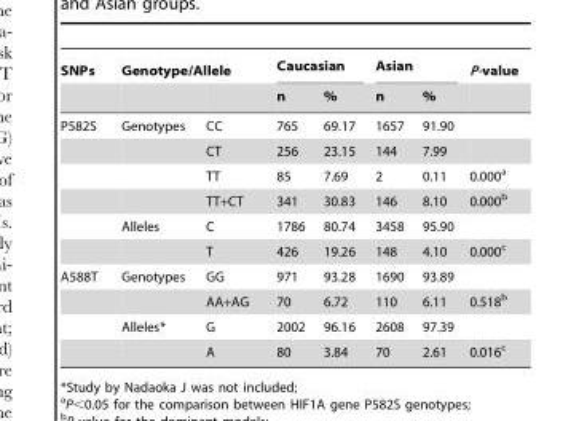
<table><thead><tr><td rowspan="2">SNPs</td><td colspan="2">Genotype/Allele</td><td colspan="2">Caucasian</td><td colspan="2">Asian</td><td rowspan="2">P-value</td></tr><tr><td></td><td></td><td>n</td><td>%</td><td>n</td><td>%</td></tr></thead><tbody><tr><td rowspan="6">P582S</td><td>Genotypes</td><td>CC</td><td>765</td><td>69.17</td><td>1657</td><td>91.90</td><td></td></tr><tr><td></td><td>CT</td><td>256</td><td>23.15</td><td>144</td><td>7.99</td><td></td></tr><tr><td></td><td>TT</td><td>85</td><td>7.69</td><td>2</td><td>0.11</td><td>0.000<sup>a</sup></td></tr><tr><td></td><td>TT+CT</td><td>341</td><td>30.83</td><td>146</td><td>8.10</td><td>0.000<sup>b</sup></td></tr><tr><td>Alleles</td><td>C</td><td>1786</td><td>80.74</td><td>3458</td><td>95.90</td><td></td></tr><tr><td></td><td>T</td><td>426</td><td>19.26</td><td>148</td><td>4.10</td><td>0.000<sup>c</sup></td></tr><tr><td rowspan="4">A588T</td><td>Genotypes</td><td>GG</td><td>971</td><td>93.28</td><td>1690</td><td>93.89</td><td></td></tr><tr><td></td><td>AA+AG</td><td>70</td><td>6.72</td><td>110</td><td>6.11</td><td>0.518<sup>b</sup></td></tr><tr><td>Alleles*</td><td>G</td><td>2002</td><td>96.16</td><td>2608</td><td>97.39</td><td></td></tr><tr><td></td><td>A</td><td>80</td><td>3.84</td><td>70</td><td>2.61</td><td>0.016<sup>c</sup></td></tr></tbody></table>